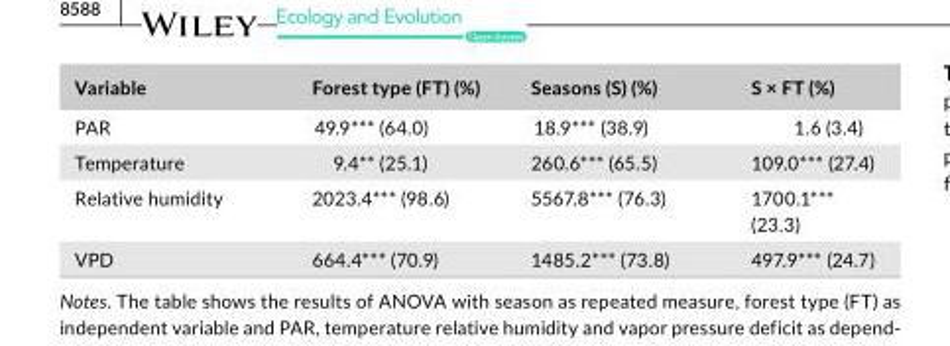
<table><thead><tr><td>Variable</td><td>Forest type (FT) (%)</td><td>Seasons (S) (%)</td><td>S × FT (%)</td></tr></thead><tbody><tr><td>PAR</td><td>49.9*** (64.0)</td><td>18.9*** (38.9)</td><td>1.6 (3.4)</td></tr><tr><td>Temperature</td><td>9.4** (25.1)</td><td>260.6*** (65.5)</td><td>109.0*** (27.4)</td></tr><tr><td>Relative humidity</td><td>2023.4*** (98.6)</td><td>5567.8*** (76.3)</td><td>1700.1*** (23.3)</td></tr><tr><td>VPD</td><td>664.4*** (70.9)</td><td>1485.2*** (73.8)</td><td>497.9*** (24.7)</td></tr></tbody></table>